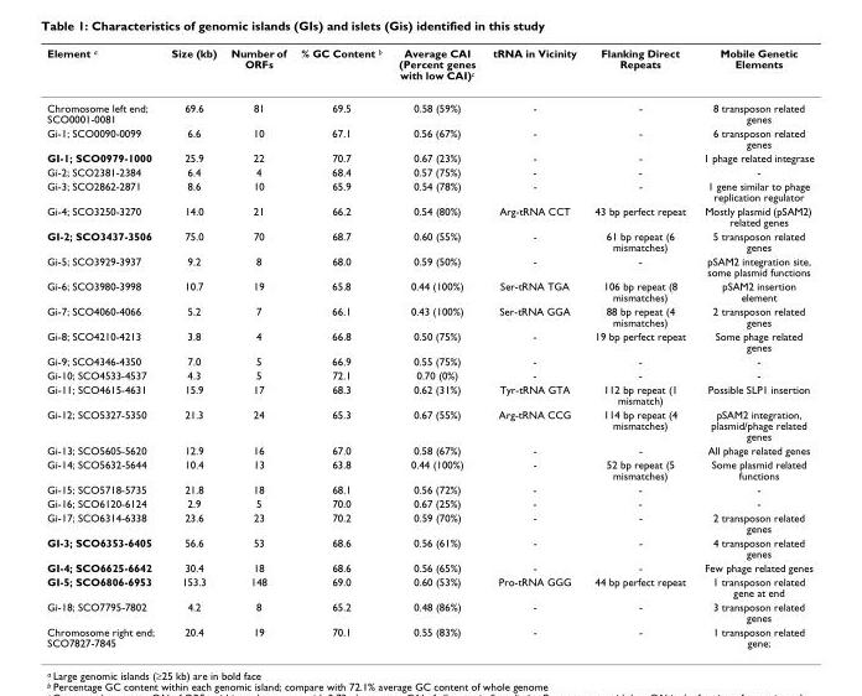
<table><thead><tr><td>Element <sup>a</sup></td><td>Size (kb)</td><td>Number of ORFs</td><td>% GC Content <sup>b</sup></td><td>Average CAI (Percent genes with low CAI)<sup>c</sup></td><td>tRNA in Vicinity</td><td>Flanking Direct Repeats</td><td>Mobile Genetic Elements</td></tr></thead><tbody><tr><td>Chromosome left end; SCO0001-0081</td><td>69.6</td><td>81</td><td>69.5</td><td>0.58 (59%)</td><td>-</td><td>-</td><td>8 transposon related genes</td></tr><tr><td>Gi-1; SCO0090-0099</td><td>6.6</td><td>10</td><td>67.1</td><td>0.56 (67%)</td><td>-</td><td>-</td><td>6 transposon related genes</td></tr><tr><td>GI-1; SCO0979-1000</td><td>25.9</td><td>22</td><td>70.7</td><td>0.67 (23%)</td><td>-</td><td>-</td><td>1 phage related integrase</td></tr><tr><td>Gi-2; SCO2381-2384</td><td>6.4</td><td>4</td><td>68.4</td><td>0.57 (75%)</td><td>-</td><td>-</td><td>-</td></tr><tr><td>Gi-3; SCO2862-2871</td><td>8.6</td><td>10</td><td>65.9</td><td>0.54 (78%)</td><td>-</td><td>-</td><td>1 gene similar to phage replication regulator</td></tr><tr><td>Gi-4; SCO3250-3270</td><td>14.0</td><td>21</td><td>66.2</td><td>0.54 (80%)</td><td>Arg-tRNA CCT</td><td>43 bp perfect repeat</td><td>Mostly plasmid (pSAM2) related genes</td></tr><tr><td>GI-2; SCO3437-3506</td><td>75.0</td><td>70</td><td>68.7</td><td>0.60 (55%)</td><td>-</td><td>61 bp repeat (6 mismatches)</td><td>5 transposon related genes</td></tr><tr><td>Gi-5; SCO3929-3937</td><td>9.2</td><td>8</td><td>68.0</td><td>0.59 (50%)</td><td>-</td><td>-</td><td>pSAM2 integration site, some plasmid functions</td></tr><tr><td>Gi-6; SCO3980-3998</td><td>10.7</td><td>19</td><td>65.8</td><td>0.44 (100%)</td><td>Ser-tRNA TGA</td><td>106 bp repeat (8 mismatches)</td><td>pSAM2 insertion element</td></tr><tr><td>Gi-7; SCO4060-4066</td><td>5.2</td><td>7</td><td>66.1</td><td>0.43 (100%)</td><td>Ser-tRNA GGA</td><td>88 bp repeat (4 mismatches)</td><td>2 transposon related genes</td></tr><tr><td>Gi-8; SCO4210-4213</td><td>3.8</td><td>4</td><td>66.8</td><td>0.50 (75%)</td><td>-</td><td>19 bp perfect repeat</td><td>Some phage related genes</td></tr><tr><td>Gi-9; SCO4346-4350</td><td>7.0</td><td>5</td><td>66.9</td><td>0.55 (75%)</td><td>-</td><td>-</td><td>-</td></tr><tr><td>Gi-10; SCO4533-4537</td><td>4.3</td><td>5</td><td>72.1</td><td>0.70 (0%)</td><td>-</td><td>-</td><td>-</td></tr><tr><td>Gi-11; SCO4615-4631</td><td>15.9</td><td>17</td><td>68.3</td><td>0.62 (31%)</td><td>Tyr-tRNA GTA</td><td>112 bp repeat (1 mismatch)</td><td>Possible SLP1 insertion</td></tr><tr><td>Gi-12; SCO5327-5350</td><td>21.3</td><td>24</td><td>65.3</td><td>0.67 (55%)</td><td>Arg-tRNA CCG</td><td>114 bp repeat (4 mismatches)</td><td>pSAM2 integration, plasmid/phage related genes</td></tr><tr><td>Gi-13; SCO5605-5620</td><td>12.9</td><td>16</td><td>67.0</td><td>0.58 (67%)</td><td>-</td><td>-</td><td>All phage related genes</td></tr><tr><td>Gi-14; SCO5632-5644</td><td>10.4</td><td>13</td><td>63.8</td><td>0.44 (100%)</td><td>-</td><td>52 bp repeat (5 mismatches)</td><td>Some plasmid related functions</td></tr><tr><td>Gi-15; SCO5718-5735</td><td>21.8</td><td>18</td><td>68.1</td><td>0.56 (72%)</td><td>-</td><td>-</td><td>-</td></tr><tr><td>Gi-16; SCO6120-6124</td><td>2.9</td><td>5</td><td>70.0</td><td>0.67 (25%)</td><td>-</td><td>-</td><td>-</td></tr><tr><td>Gi-17; SCO6314-6338</td><td>23.6</td><td>23</td><td>70.2</td><td>0.59 (70%)</td><td>-</td><td>-</td><td>2 transposon related genes</td></tr><tr><td>GI-3; SCO6353-6405</td><td>56.6</td><td>53</td><td>68.6</td><td>0.56 (61%)</td><td>-</td><td>-</td><td>4 transposon related genes</td></tr><tr><td>GI-4; SCO6625-6642</td><td>30.4</td><td>18</td><td>68.6</td><td>0.56 (65%)</td><td>-</td><td>-</td><td>Few phage related genes</td></tr><tr><td>GI-5; SCO6806-6953</td><td>153.3</td><td>148</td><td>69.0</td><td>0.60 (53%)</td><td>Pro-tRNA GGG</td><td>44 bp perfect repeat</td><td>1 transposon related gene at end</td></tr><tr><td>Gi-18; SCO7795-7802</td><td>4.2</td><td>8</td><td>65.2</td><td>0.48 (86%)</td><td>-</td><td>-</td><td>3 transposon related genes</td></tr><tr><td>Chromosome right end; SCO7827-7845</td><td>20.4</td><td>19</td><td>70.1</td><td>0.55 (83%)</td><td>-</td><td>-</td><td>1 transposon related gene;</td></tr></tbody></table>